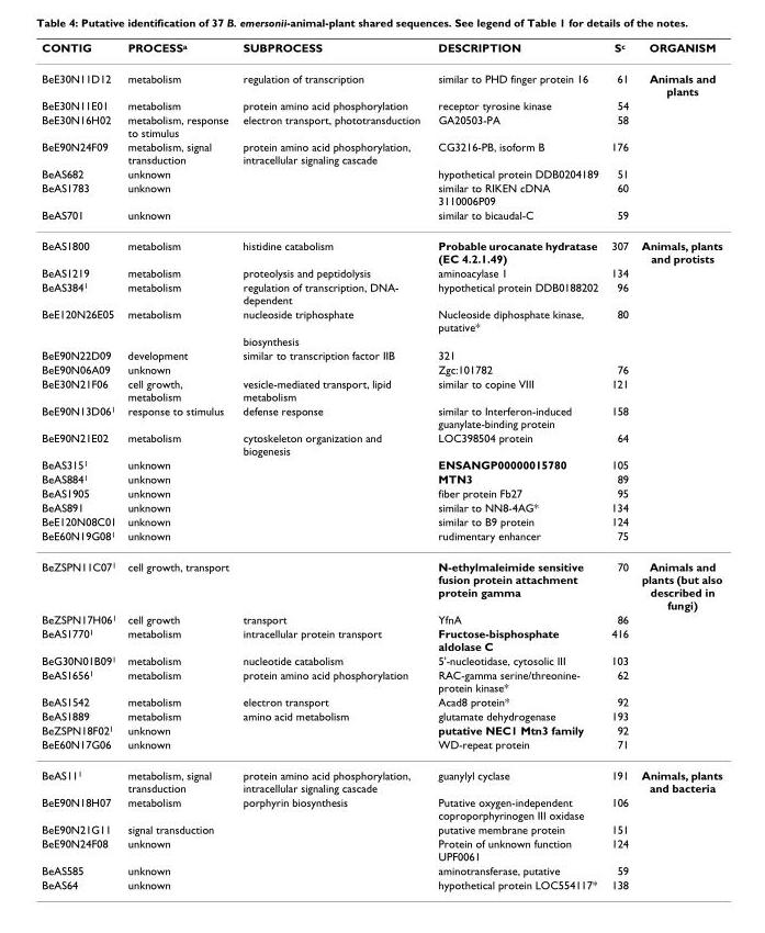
<table><thead><tr><td>CONTIG</td><td>PROCESSa</td><td>SUBPROCESS</td><td>DESCRIPTION</td><td>Sc</td><td>ORGANISM</td></tr></thead><tbody><tr><td>BeE30N11D12</td><td>metabolism</td><td>regulation of transcription</td><td>similar to PHD finger protein 16</td><td>61</td><td>Animals and plants</td></tr><tr><td>BeE30N11E01</td><td>metabolism</td><td>protein amino acid phosphorylation</td><td>receptor tyrosine kinase</td><td>54</td><td></td></tr><tr><td>BeE30N16H02</td><td>metabolism, response to stimulus</td><td>electron transport, phototransduction</td><td>GA20503-PA</td><td>58</td><td></td></tr><tr><td>BeE90N24F09</td><td>metabolism, signal transduction</td><td>protein amino acid phosphorylation, intracellular signaling cascade</td><td>CG3216-PB, isoform B</td><td>176</td><td></td></tr><tr><td>BeAS682</td><td>unknown</td><td></td><td>hypothetical protein DDB0204189</td><td>51</td><td></td></tr><tr><td>BeAS1783</td><td>unknown</td><td></td><td>similar to RIKEN cDNA 3110006P09</td><td>60</td><td></td></tr><tr><td>BeAS701</td><td>unknown</td><td></td><td>similar to bicaudal-C</td><td>59</td><td></td></tr><tr><td>BeAS1800</td><td>metabolism</td><td>histidine catabolism</td><td>Probable urocanate hydratase (EC 4.2.1.49)</td><td>307</td><td>Animals, plants and protists</td></tr><tr><td>BeAS1219</td><td>metabolism</td><td>proteolysis and peptidolysis</td><td>aminoacylase 1</td><td>134</td><td></td></tr><tr><td>BeAS3841</td><td>metabolism</td><td>regulation of transcription, DNA- dependent</td><td>hypothetical protein DDB0188202</td><td>96</td><td></td></tr><tr><td rowspan="2">BeE120N26E05</td><td>metabolism</td><td>nucleoside triphosphate</td><td>Nucleoside diphosphate kinase, putative*</td><td>80</td><td></td></tr><tr><td></td><td>biosynthesis</td><td></td><td></td><td></td></tr><tr><td>BeE90N22D09</td><td>development</td><td>similar to transcription factor IIB</td><td>321</td><td></td><td></td></tr><tr><td>BeE90N06A09</td><td>unknown</td><td></td><td>Zgc:101782</td><td>76</td><td></td></tr><tr><td>BeE30N21F06</td><td>cell growth, metabolism</td><td>vesicle-mediated transport, lipid metabolism</td><td>similar to copine VIII</td><td>121</td><td></td></tr><tr><td>BeE90N13D061</td><td>response to stimulus</td><td>defense response</td><td>similar to Interferon-induced guanylate-binding protein</td><td>158</td><td></td></tr><tr><td>BeE90N21E02</td><td>metabolism</td><td>cytoskeleton organization and biogenesis</td><td>LOC398504 protein</td><td>64</td><td></td></tr><tr><td>BeAS3151</td><td>unknown</td><td></td><td>ENSANGP00000015780</td><td>105</td><td></td></tr><tr><td>BeAS8841</td><td>unknown</td><td></td><td>MTN3</td><td>89</td><td></td></tr><tr><td>BeAS1905</td><td>unknown</td><td></td><td>fiber protein Fb27</td><td>95</td><td></td></tr><tr><td>BeAS891</td><td>unknown</td><td></td><td>similar to NN8-4AG*</td><td>134</td><td></td></tr><tr><td>BeE120N08C01</td><td>unknown</td><td></td><td>similar to B9 protein</td><td>124</td><td></td></tr><tr><td>BeE60N19G081</td><td>unknown</td><td></td><td>rudimentary enhancer</td><td>75</td><td></td></tr><tr><td>BeZSPN11C071</td><td>cell growth, transport</td><td></td><td>N-ethylmaleimide sensitive fusion protein attachment protein gamma</td><td>70</td><td>Animals and plants (but also described in fungi)</td></tr><tr><td>BeZSPN17H061</td><td>cell growth</td><td>transport</td><td>YfnA</td><td>86</td><td></td></tr><tr><td>BeAS17701</td><td>metabolism</td><td>intracellular protein transport</td><td>Fructose-bisphosphate aldolase C</td><td>416</td><td></td></tr><tr><td>BeG30N01B091</td><td>metabolism</td><td>nucleotide catabolism</td><td>5&#x27;-nucleotidase, cytosolic III</td><td>103</td><td></td></tr><tr><td>BeAS16561</td><td>metabolism</td><td>protein amino acid phosphorylation</td><td>RAC-gamma serine/threonine- protein kinase*</td><td>62</td><td></td></tr><tr><td>BeAS1542</td><td>metabolism</td><td>electron transport</td><td>Acad8 protein*</td><td>92</td><td></td></tr><tr><td>BeAS1889</td><td>metabolism</td><td>amino acid metabolism</td><td>glutamate dehydrogenase</td><td>193</td><td></td></tr><tr><td>BeZSPN18F021</td><td>unknown</td><td></td><td>putative NEC1 Mtn3 family</td><td>92</td><td></td></tr><tr><td>BeE60N17G06</td><td>unknown</td><td></td><td>WD-repeat protein</td><td>71</td><td></td></tr><tr><td>BeAS111</td><td>metabolism, signal transduction</td><td>protein amino acid phosphorylation, intracellular signaling cascade</td><td>guanylyl cyclase</td><td>191</td><td>Animals, plants and bacteria</td></tr><tr><td>BeE90N18H07</td><td>metabolism</td><td>porphyrin biosynthesis</td><td>Putative oxygen-independent coproporphyrinogen III oxidase</td><td>106</td><td></td></tr><tr><td>BeE90N21G11</td><td>signal transduction</td><td></td><td>putative membrane protein</td><td>151</td><td></td></tr><tr><td>BeE90N24F08</td><td>unknown</td><td></td><td>Protein of unknown function UPF0061</td><td>124</td><td></td></tr><tr><td>BeAS585</td><td>unknown</td><td></td><td>aminotransferase, putative</td><td>59</td><td></td></tr><tr><td>BeAS64</td><td>unknown</td><td></td><td>hypothetical protein LOC554117*</td><td>138</td><td></td></tr></tbody></table>